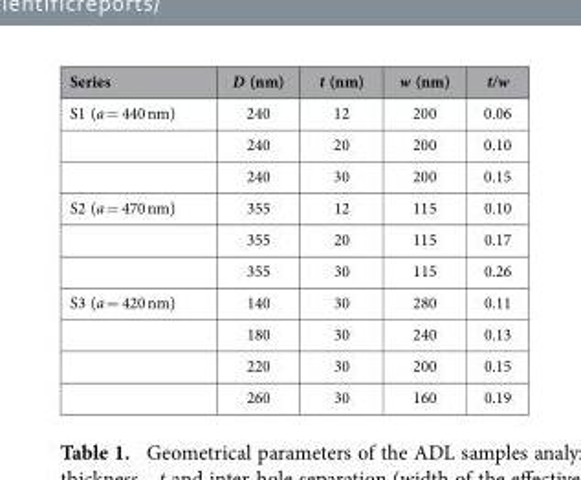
<table><thead><tr><td>Series</td><td>D (nm)</td><td>t (nm)</td><td>w (nm)</td><td>t/w</td></tr></thead><tbody><tr><td rowspan="3">S1 (a = 440 nm)</td><td>240</td><td>12</td><td>200</td><td>0.06</td></tr><tr><td>240</td><td>20</td><td>200</td><td>0.10</td></tr><tr><td>240</td><td>30</td><td>200</td><td>0.15</td></tr><tr><td rowspan="3">S2 (a = 470 nm)</td><td>355</td><td>12</td><td>115</td><td>0.10</td></tr><tr><td>355</td><td>20</td><td>115</td><td>0.17</td></tr><tr><td>355</td><td>30</td><td>115</td><td>0.26</td></tr><tr><td rowspan="4">S3 (a = 420 nm)</td><td>140</td><td>30</td><td>280</td><td>0.11</td></tr><tr><td>180</td><td>30</td><td>240</td><td>0.13</td></tr><tr><td>220</td><td>30</td><td>200</td><td>0.15</td></tr><tr><td>260</td><td>30</td><td>160</td><td>0.19</td></tr></tbody></table>